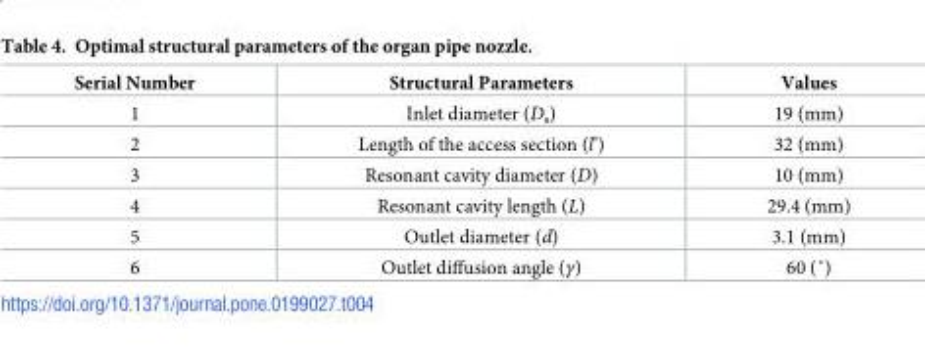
<table><thead><tr><td>Serial Number</td><td>Structural Parameters</td><td>Values</td></tr></thead><tbody><tr><td>1</td><td>Inlet diameter (D<sub>s</sub>)</td><td>19 (mm)</td></tr><tr><td>2</td><td>Length of the access section (l’)</td><td>32 (mm)</td></tr><tr><td>3</td><td>Resonant cavity diameter (D)</td><td>10 (mm)</td></tr><tr><td>4</td><td>Resonant cavity length (L)</td><td>29.4 (mm)</td></tr><tr><td>5</td><td>Outlet diameter (d)</td><td>3.1 (mm)</td></tr><tr><td>6</td><td>Outlet diffusion angle (γ)</td><td>60 (˚)</td></tr></tbody></table>